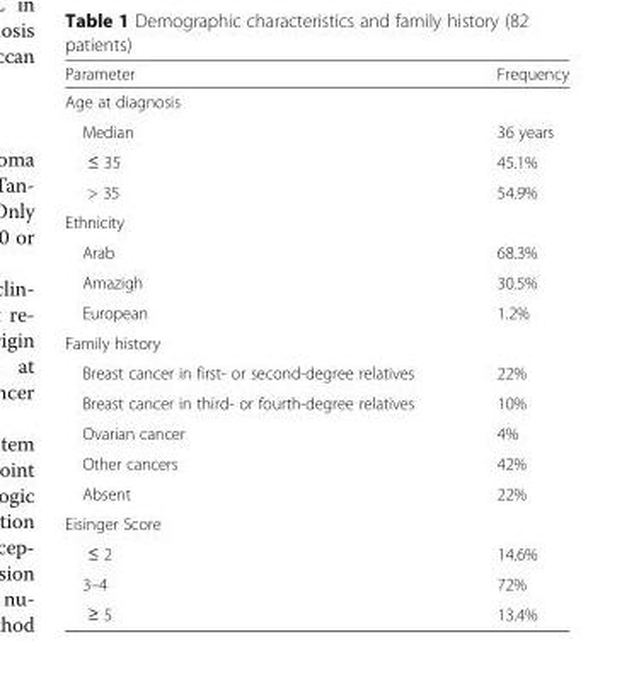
<table><thead><tr><td>Parameter</td><td>Frequency</td></tr></thead><tbody><tr><td colspan="2">Age at diagnosis</td></tr><tr><td>Median</td><td>36 years</td></tr><tr><td>≤ 35</td><td>45.1%</td></tr><tr><td>&gt; 35</td><td>54.9%</td></tr><tr><td colspan="2">Ethnicity</td></tr><tr><td>Arab</td><td>68.3%</td></tr><tr><td>Amazigh</td><td>30.5%</td></tr><tr><td>European</td><td>1.2%</td></tr><tr><td colspan="2">Family history</td></tr><tr><td>Breast cancer in first- or second-degree relatives</td><td>22%</td></tr><tr><td>Breast cancer in third- or fourth-degree relatives</td><td>10%</td></tr><tr><td>Ovarian cancer</td><td>4%</td></tr><tr><td>Other cancers</td><td>42%</td></tr><tr><td>Absent</td><td>22%</td></tr><tr><td colspan="2">Eisinger Score</td></tr><tr><td>≤ 2</td><td>14.6%</td></tr><tr><td>3–4</td><td>72%</td></tr><tr><td>≥ 5</td><td>13.4%</td></tr></tbody></table>